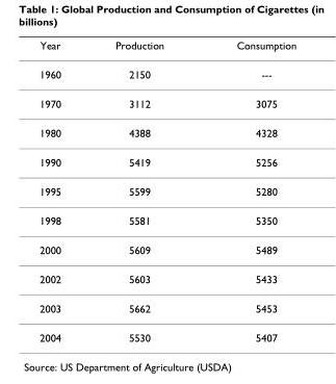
<table><thead><tr><td>Year</td><td>Production</td><td>Consumption</td></tr></thead><tbody><tr><td>1960</td><td>2150</td><td>---</td></tr><tr><td>1970</td><td>3112</td><td>3075</td></tr><tr><td>1980</td><td>4388</td><td>4328</td></tr><tr><td>1990</td><td>5419</td><td>5256</td></tr><tr><td>1995</td><td>5599</td><td>5280</td></tr><tr><td>1998</td><td>5581</td><td>5350</td></tr><tr><td>2000</td><td>5609</td><td>5489</td></tr><tr><td>2002</td><td>5603</td><td>5433</td></tr><tr><td>2003</td><td>5662</td><td>5453</td></tr><tr><td>2004</td><td>5530</td><td>5407</td></tr></tbody></table>